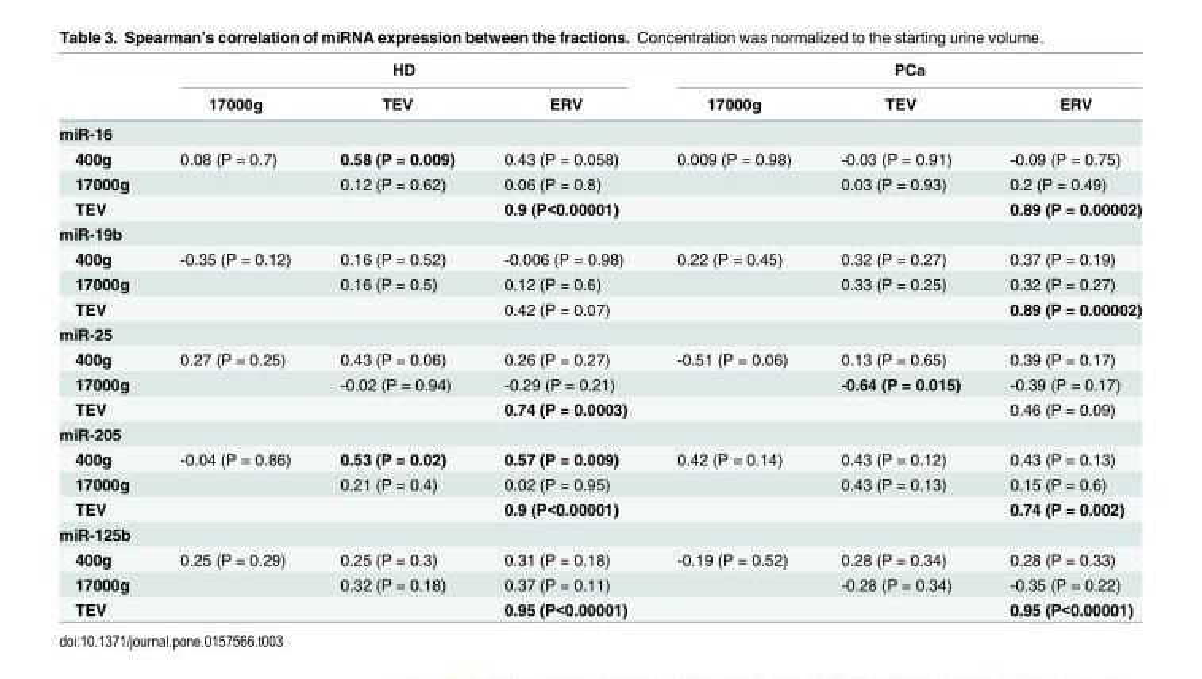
<table><thead><tr><td rowspan="2"></td><td colspan="3">HD</td><td colspan="3">PCa</td></tr><tr><td>17000g</td><td>TEV</td><td>ERV</td><td>17000g</td><td>TEV</td><td>ERV</td></tr></thead><tbody><tr><td colspan="7">miR-16</td></tr><tr><td>400g</td><td>0.08 (P = 0.7)</td><td>0.58 (P = 0.009)</td><td>0.43 (P = 0.058)</td><td>0.009 (P = 0.98)</td><td>-0.03 (P = 0.91)</td><td>-0.09 (P = 0.75)</td></tr><tr><td>17000g</td><td></td><td>0.12 (P = 0.62)</td><td>0.06 (P = 0.8)</td><td></td><td>0.03 (P = 0.93)</td><td>0.2 (P = 0.49)</td></tr><tr><td>TEV</td><td></td><td></td><td>0.9 (P&lt;0.00001)</td><td></td><td></td><td>0.89 (P = 0.00002)</td></tr><tr><td colspan="7">miR-19b</td></tr><tr><td>400g</td><td>-0.35 (P = 0.12)</td><td>0.16 (P = 0.52)</td><td>-0.006 (P = 0.98)</td><td>0.22 (P = 0.45)</td><td>0.32 (P = 0.27)</td><td>0.37 (P = 0.19)</td></tr><tr><td>17000g</td><td></td><td>0.16 (P = 0.5)</td><td>0.12 (P = 0.6)</td><td></td><td>0.33 (P = 0.25)</td><td>0.32 (P = 0.27)</td></tr><tr><td>TEV</td><td></td><td></td><td>0.42 (P = 0.07)</td><td></td><td></td><td>0.89 (P = 0.00002)</td></tr><tr><td colspan="7">miR-25</td></tr><tr><td>400g</td><td>0.27 (P = 0.25)</td><td>0.43 (P = 0.06)</td><td>0.26 (P = 0.27)</td><td>-0.51 (P = 0.06)</td><td>0.13 (P = 0.65)</td><td>0.39 (P = 0.17)</td></tr><tr><td>17000g</td><td></td><td>-0.02 (P = 0.94)</td><td>-0.29 (P = 0.21)</td><td></td><td>-0.64 (P = 0.015)</td><td>-0.39 (P = 0.17)</td></tr><tr><td>TEV</td><td></td><td></td><td>0.74 (P = 0.0003)</td><td></td><td></td><td>0.46 (P = 0.09)</td></tr><tr><td colspan="7">miR-205</td></tr><tr><td>400g</td><td>-0.04 (P = 0.86)</td><td>0.53 (P = 0.02)</td><td>0.57 (P = 0.009)</td><td>0.42 (P = 0.14)</td><td>0.43 (P = 0.12)</td><td>0.43 (P = 0.13)</td></tr><tr><td>17000g</td><td></td><td>0.21 (P = 0.4)</td><td>0.02 (P = 0.95)</td><td></td><td>0.43 (P = 0.13)</td><td>0.15 (P = 0.6)</td></tr><tr><td>TEV</td><td></td><td></td><td>0.9 (P&lt;0.00001)</td><td></td><td></td><td>0.74 (P = 0.002)</td></tr><tr><td colspan="7">miR-125b</td></tr><tr><td>400g</td><td>0.25 (P = 0.29)</td><td>0.25 (P = 0.3)</td><td>0.31 (P = 0.18)</td><td>-0.19 (P = 0.52)</td><td>0.28 (P = 0.34)</td><td>0.28 (P = 0.33)</td></tr><tr><td>17000g</td><td></td><td>0.32 (P = 0.18)</td><td>0.37 (P = 0.11)</td><td></td><td>-0.28 (P = 0.34)</td><td>-0.35 (P = 0.22)</td></tr><tr><td>TEV</td><td></td><td></td><td>0.95 (P&lt;0.00001)</td><td></td><td></td><td>0.95 (P&lt;0.00001)</td></tr></tbody></table>